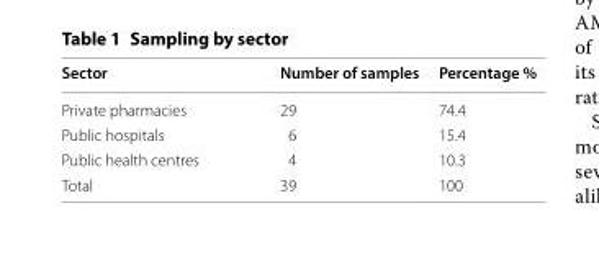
<table><thead><tr><td>Sector</td><td>Number of samples</td><td>Percentage %</td></tr></thead><tbody><tr><td>Private pharmacies</td><td>29</td><td>74.4</td></tr><tr><td>Public hospitals</td><td>6</td><td>15.4</td></tr><tr><td>Public health centres</td><td>4</td><td>10.3</td></tr><tr><td>Total</td><td>39</td><td>100</td></tr></tbody></table>